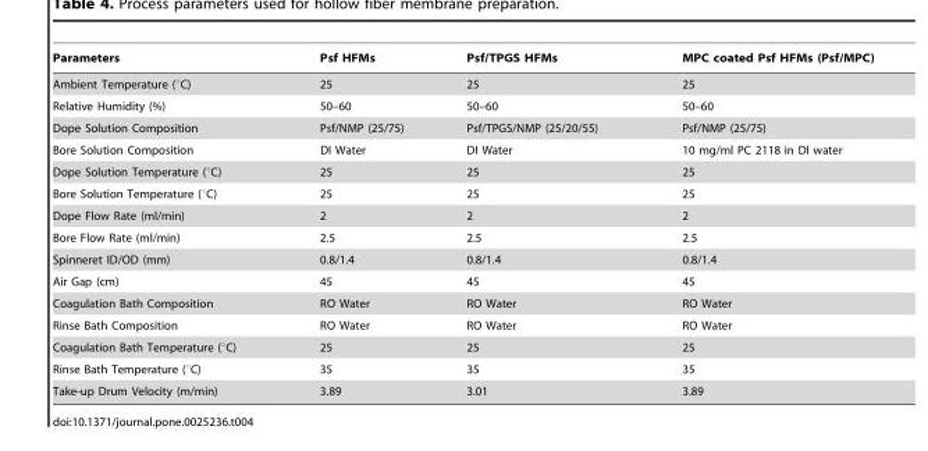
<table><thead><tr><td>Parameters</td><td>Psf HFMs</td><td>Psf/TPGS HFMs</td><td>MPC coated Psf HFMs (Psf/MPC)</td></tr></thead><tbody><tr><td>Ambient Temperature (°C)</td><td>25</td><td>25</td><td>25</td></tr><tr><td>Relative Humidity (%)</td><td>50–60</td><td>50–60</td><td>50–60</td></tr><tr><td>Dope Solution Composition</td><td>Psf/NMP (25/75)</td><td>Psf/TPGS/NMP (25/20/55)</td><td>Psf/NMP (25/75)</td></tr><tr><td>Bore Solution Composition</td><td>DI Water</td><td>DI Water</td><td>10 mg/ml PC 2118 in DI water</td></tr><tr><td>Dope Solution Temperature (°C)</td><td>25</td><td>25</td><td>25</td></tr><tr><td>Bore Solution Temperature (°C)</td><td>25</td><td>25</td><td>25</td></tr><tr><td>Dope Flow Rate (ml/min)</td><td>2</td><td>2</td><td>2</td></tr><tr><td>Bore Flow Rate (ml/min)</td><td>2.5</td><td>2.5</td><td>2.5</td></tr><tr><td>Spinneret ID/OD (mm)</td><td>0.8/1.4</td><td>0.8/1.4</td><td>0.8/1.4</td></tr><tr><td>Air Gap (cm)</td><td>45</td><td>45</td><td>45</td></tr><tr><td>Coagulation Bath Composition</td><td>RO Water</td><td>RO Water</td><td>RO Water</td></tr><tr><td>Rinse Bath Composition</td><td>RO Water</td><td>RO Water</td><td>RO Water</td></tr><tr><td>Coagulation Bath Temperature (°C)</td><td>25</td><td>25</td><td>25</td></tr><tr><td>Rinse Bath Temperature (°C)</td><td>35</td><td>35</td><td>35</td></tr><tr><td>Take-up Drum Velocity (m/min)</td><td>3.89</td><td>3.01</td><td>3.89</td></tr></tbody></table>